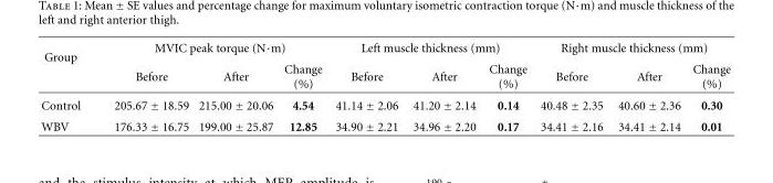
<table><thead><tr><td rowspan="2">Group</td><td colspan="3">MVIC peak torque (N·m)</td><td colspan="3">Left muscle thickness (mm)</td><td colspan="3">Right muscle thickness (mm)</td></tr><tr><td>Before</td><td>After</td><td>Change (%)</td><td>Before</td><td>After</td><td>Change (%)</td><td>Before</td><td>After</td><td>Change (%)</td></tr></thead><tbody><tr><td>Control</td><td>205.67 ± 18.59</td><td>215.00 ± 20.06</td><td>4.54</td><td>41.14 ± 2.06</td><td>41.20 ± 2.14</td><td>0.14</td><td>40.48 ± 2.35</td><td>40.60 ± 2.36</td><td>0.30</td></tr><tr><td>WBV</td><td>176.33 ± 16.75</td><td>199.00 ± 25.87</td><td>12.85</td><td>34.90 ± 2.21</td><td>34.96 ± 2.20</td><td>0.17</td><td>34.41 ± 2.16</td><td>34.41 ± 2.14</td><td>0.01</td></tr></tbody></table>